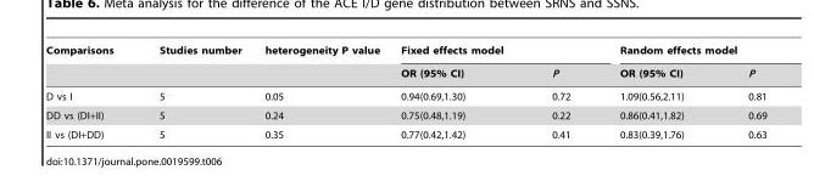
<table><thead><tr><td rowspan="2">Comparisons</td><td rowspan="2">Studies number</td><td rowspan="2">heterogeneity P value</td><td colspan="2">Fixed effects model</td><td colspan="2">Random effects model</td></tr><tr><td>OR (95% CI)</td><td>P</td><td>OR (95% CI)</td><td>P</td></tr></thead><tbody><tr><td>D vs I</td><td>5</td><td>0.05</td><td>0.94(0.69,1.30)</td><td>0.72</td><td>1.09(0.56,2.11)</td><td>0.81</td></tr><tr><td>DD vs (DI+II)</td><td>5</td><td>0.24</td><td>0.75(0.48,1.19)</td><td>0.22</td><td>0.86(0.41,1.82)</td><td>0.69</td></tr><tr><td>II vs (DI+DD)</td><td>5</td><td>0.35</td><td>0.77(0.42,1.42)</td><td>0.41</td><td>0.83(0.39,1.76)</td><td>0.63</td></tr></tbody></table>